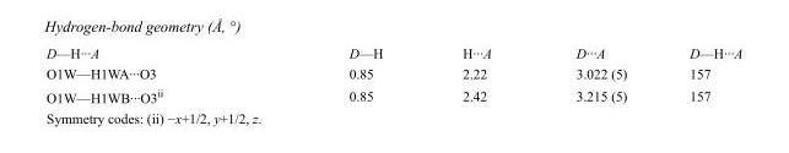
<table><tbody><tr><td>D—H···A</td><td>D—H</td><td>H···A</td><td>D···A</td><td>D—H···A</td></tr><tr><td>O1W—H1WA···O3</td><td>0.85</td><td>2.22</td><td>3.022 (5)</td><td>157</td></tr><tr><td>O1W—H1WB···O3<sup>ii</sup></td><td>0.85</td><td>2.42</td><td>3.215 (5)</td><td>157</td></tr></tbody></table>